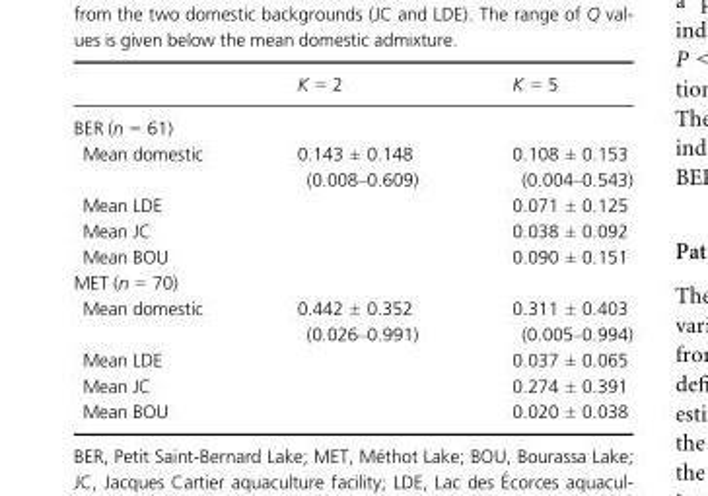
<table><thead><tr><td></td><td>K = 2</td><td>K = 5</td></tr></thead><tbody><tr><td colspan="3">BER (n = 61)</td></tr><tr><td>Mean domestic</td><td rowspan="4">0.143 ± 0.148 (0.008–0.609)</td><td>0.108 ± 0.153 (0.004–0.543)</td></tr><tr><td>Mean LDE</td><td>0.071 ± 0.125</td></tr><tr><td>Mean JC</td><td>0.038 ± 0.092</td></tr><tr><td>Mean BOU</td><td>0.090 ± 0.151</td></tr><tr><td colspan="3">MET (n = 70)</td></tr><tr><td>Mean domestic</td><td rowspan="4">0.442 ± 0.352 (0.026–0.991)</td><td>0.311 ± 0.403 (0.005–0.994)</td></tr><tr><td>Mean LDE</td><td>0.037 ± 0.065</td></tr><tr><td>Mean JC</td><td>0.274 ± 0.391</td></tr><tr><td>Mean BOU</td><td>0.020 ± 0.038</td></tr></tbody></table>